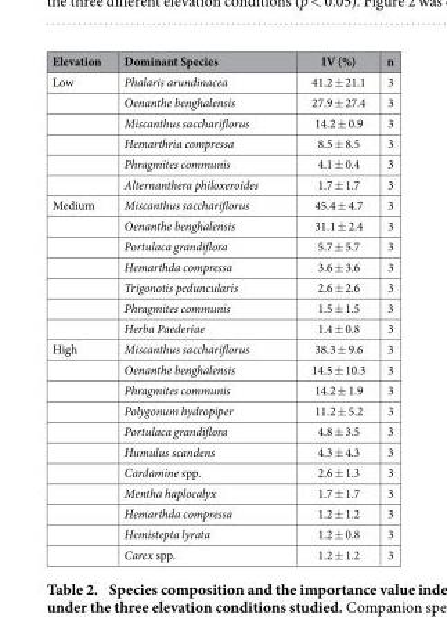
<table><thead><tr><td>Elevation</td><td>Dominant Species</td><td>IV (%)</td><td>n</td></tr></thead><tbody><tr><td rowspan="6">Low</td><td>Phalaris arundinacea</td><td>41.2 ± 21.1</td><td>3</td></tr><tr><td>Oenanthe benghalensis</td><td>27.9 ± 27.4</td><td>3</td></tr><tr><td>Miscanthus sacchariflorus</td><td>14.2 ± 0.9</td><td>3</td></tr><tr><td>Hemarthria compressa</td><td>8.5 ± 8.5</td><td>3</td></tr><tr><td>Phragmites communis</td><td>4.1 ± 0.4</td><td>3</td></tr><tr><td>Alternanthera philoxeroides</td><td>1.7 ± 1.7</td><td>3</td></tr><tr><td rowspan="7">Medium</td><td>Miscanthus sacchariflorus</td><td>45.4 ± 4.7</td><td>3</td></tr><tr><td>Oenanthe benghalensis</td><td>31.1 ± 2.4</td><td>3</td></tr><tr><td>Portulaca grandiflora</td><td>5.7 ± 5.7</td><td>3</td></tr><tr><td>Hemarthda compressa</td><td>3.6 ± 3.6</td><td>3</td></tr><tr><td>Trigonotis peduncularis</td><td>2.6 ± 2.6</td><td>3</td></tr><tr><td>Phragmites communis</td><td>1.5 ± 1.5</td><td>3</td></tr><tr><td>Herba Paederiae</td><td>1.4 ± 0.8</td><td>3</td></tr><tr><td rowspan="11">High</td><td>Miscanthus sacchariflorus</td><td>38.3 ± 9.6</td><td>3</td></tr><tr><td>Oenanthe benghalensis</td><td>14.5 ± 10.3</td><td>3</td></tr><tr><td>Phragmites communis</td><td>14.2 ± 1.9</td><td>3</td></tr><tr><td>Polygonum hydropiper</td><td>11.2 ± 5.2</td><td>3</td></tr><tr><td>Portulaca grandiflora</td><td>4.8 ± 3.5</td><td>3</td></tr><tr><td>Humulus scandens</td><td>4.3 ± 4.3</td><td>3</td></tr><tr><td>Cardamine spp.</td><td>2.6 ± 1.3</td><td>3</td></tr><tr><td>Mentha haplocalyx</td><td>1.7 ± 1.7</td><td>3</td></tr><tr><td>Hemarthda compressa</td><td>1.2 ± 1.2</td><td>3</td></tr><tr><td>Hemistepta lyrata</td><td>1.2 ± 0.8</td><td>3</td></tr><tr><td>Carex spp.</td><td>1.2 ± 1.2</td><td>3</td></tr></tbody></table>